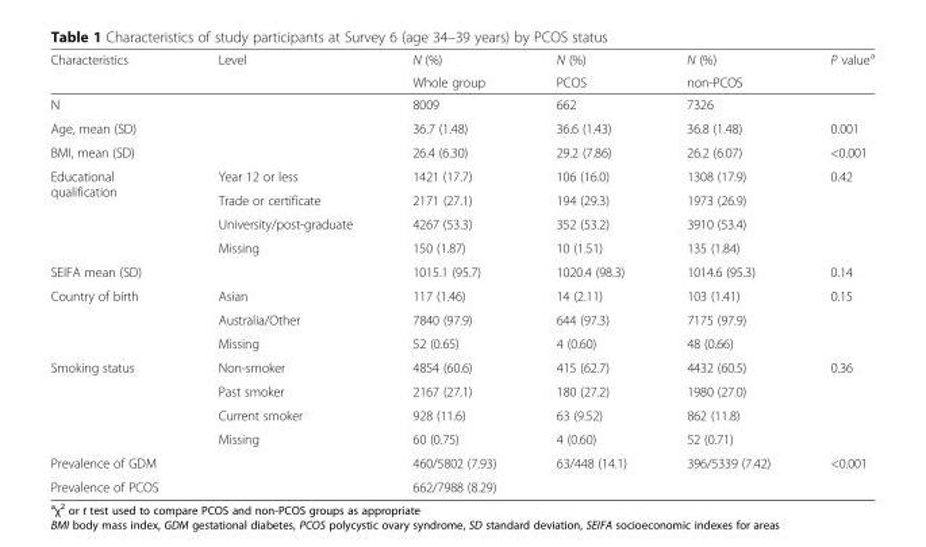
<table><thead><tr><td rowspan="2">Characteristics</td><td rowspan="2">Level</td><td rowspan="2">N (%) Whole group</td><td rowspan="2">N (%) PCOS</td><td rowspan="2">N (%) non-PCOS</td><td rowspan="2">P value<sup>a</sup></td></tr><tr></tr></thead><tbody><tr><td>N</td><td></td><td>8009</td><td>662</td><td>7326</td><td></td></tr><tr><td>Age, mean (SD)</td><td></td><td>36.7 (1.48)</td><td>36.6 (1.43)</td><td>36.8 (1.48)</td><td>0.001</td></tr><tr><td>BMI, mean (SD)</td><td></td><td>26.4 (6.30)</td><td>29.2 (7.86)</td><td>26.2 (6.07)</td><td>&lt;0.001</td></tr><tr><td rowspan="4">Educational qualification</td><td>Year 12 or less</td><td>1421 (17.7)</td><td>106 (16.0)</td><td>1308 (17.9)</td><td rowspan="3">0.42</td></tr><tr><td>Trade or certificate</td><td>2171 (27.1)</td><td>194 (29.3)</td><td>1973 (26.9)</td></tr><tr><td>University/post-graduate</td><td>4267 (53.3)</td><td>352 (53.2)</td><td>3910 (53.4)</td></tr><tr><td>Missing</td><td>150 (1.87)</td><td>10 (1.51)</td><td>135 (1.84)</td><td></td></tr><tr><td>SEIFA mean (SD)</td><td></td><td>1015.1 (95.7)</td><td>1020.4 (98.3)</td><td>1014.6 (95.3)</td><td>0.14</td></tr><tr><td rowspan="3">Country of birth</td><td>Asian</td><td>117 (1.46)</td><td>14 (2.11)</td><td>103 (1.41)</td><td rowspan="3">0.15</td></tr><tr><td>Australia/Other</td><td>7840 (97.9)</td><td>644 (97.3)</td><td>7175 (97.9)</td></tr><tr><td>Missing</td><td>52 (0.65)</td><td>4 (0.60)</td><td>48 (0.66)</td></tr><tr><td rowspan="4">Smoking status</td><td>Non-smoker</td><td>4854 (60.6)</td><td>415 (62.7)</td><td>4432 (60.5)</td><td>0.36</td></tr><tr><td>Past smoker</td><td>2167 (27.1)</td><td>180 (27.2)</td><td>1980 (27.0)</td><td></td></tr><tr><td>Current smoker</td><td>928 (11.6)</td><td>63 (9.52)</td><td>862 (11.8)</td><td></td></tr><tr><td>Missing</td><td>60 (0.75)</td><td>4 (0.60)</td><td>52 (0.71)</td><td></td></tr><tr><td>Prevalence of GDM</td><td></td><td>460/5802 (7.93)</td><td>63/448 (14.1)</td><td>396/5339 (7.42)</td><td>&lt;0.001</td></tr><tr><td>Prevalence of PCOS</td><td></td><td>662/7988 (8.29)</td><td></td><td></td><td></td></tr></tbody></table>